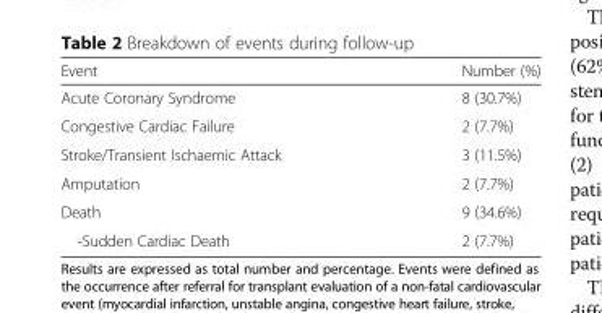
<table><thead><tr><td>Event</td><td>Number (%)</td></tr></thead><tbody><tr><td>Acute Coronary Syndrome</td><td>8 (30.7%)</td></tr><tr><td>Congestive Cardiac Failure</td><td>2 (7.7%)</td></tr><tr><td>Stroke/Transient Ischaemic Attack</td><td>3 (11.5%)</td></tr><tr><td>Amputation</td><td>2 (7.7%)</td></tr><tr><td>Death</td><td>9 (34.6%)</td></tr><tr><td>-Sudden Cardiac Death</td><td>2 (7.7%)</td></tr></tbody></table>